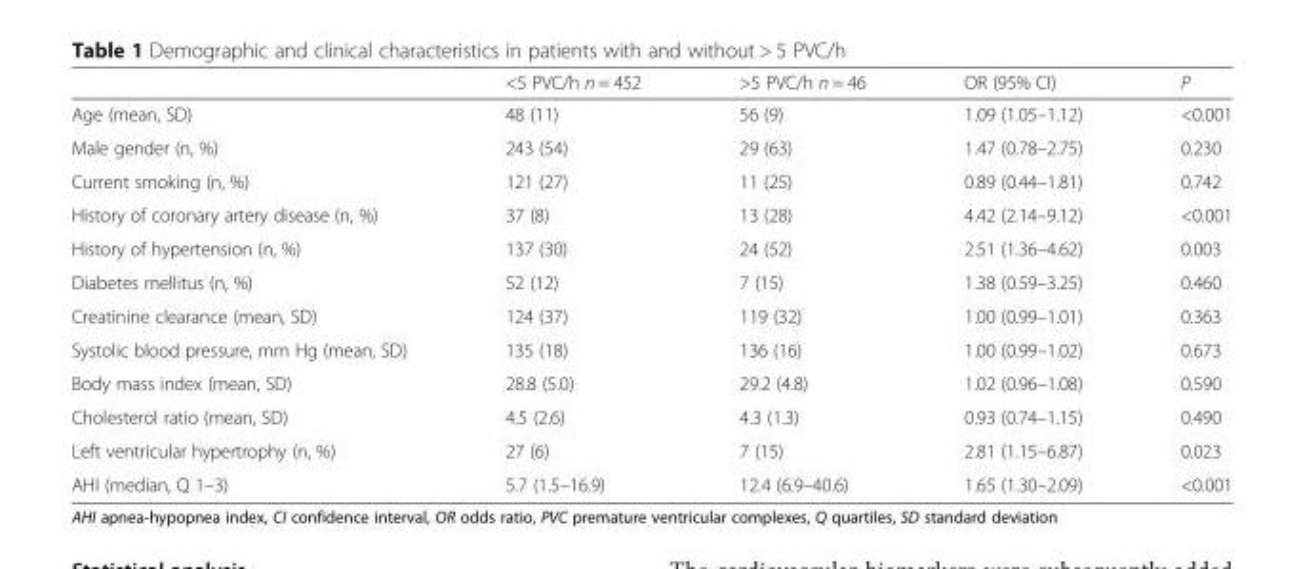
<table><thead><tr><td></td><td>&lt;5 PVC/h n = 452</td><td>&gt;5 PVC/h n = 46</td><td>OR (95% CI)</td><td>P</td></tr></thead><tbody><tr><td>Age (mean, SD)</td><td>48 (11)</td><td>56 (9)</td><td>1.09 (1.05–1.12)</td><td>&lt;0.001</td></tr><tr><td>Male gender (n, %)</td><td>243 (54)</td><td>29 (63)</td><td>1.47 (0.78–2.75)</td><td>0.230</td></tr><tr><td>Current smoking (n, %)</td><td>121 (27)</td><td>11 (25)</td><td>0.89 (0.44–1.81)</td><td>0.742</td></tr><tr><td>History of coronary artery disease (n, %)</td><td>37 (8)</td><td>13 (28)</td><td>4.42 (2.14–9.12)</td><td>&lt;0.001</td></tr><tr><td>History of hypertension (n, %)</td><td>137 (30)</td><td>24 (52)</td><td>2.51 (1.36–4.62)</td><td>0.003</td></tr><tr><td>Diabetes mellitus (n, %)</td><td>52 (12)</td><td>7 (15)</td><td>1.38 (0.59–3.25)</td><td>0.460</td></tr><tr><td>Creatinine clearance (mean, SD)</td><td>124 (37)</td><td>119 (32)</td><td>1.00 (0.99–1.01)</td><td>0.363</td></tr><tr><td>Systolic blood pressure, mm Hg (mean, SD)</td><td>135 (18)</td><td>136 (16)</td><td>1.00 (0.99–1.02)</td><td>0.673</td></tr><tr><td>Body mass index (mean, SD)</td><td>28.8 (5.0)</td><td>29.2 (4.8)</td><td>1.02 (0.96–1.08)</td><td>0.590</td></tr><tr><td>Cholesterol ratio (mean, SD)</td><td>4.5 (2.6)</td><td>4.3 (1.3)</td><td>0.93 (0.74–1.15)</td><td>0.490</td></tr><tr><td>Left ventricular hypertrophy (n, %)</td><td>27 (6)</td><td>7 (15)</td><td>2.81 (1.15–6.87)</td><td>0.023</td></tr><tr><td>AHI (median, Q 1–3)</td><td>5.7 (1.5–16.9)</td><td>12.4 (6.9–40.6)</td><td>1.65 (1.30–2.09)</td><td>&lt;0.001</td></tr></tbody></table>